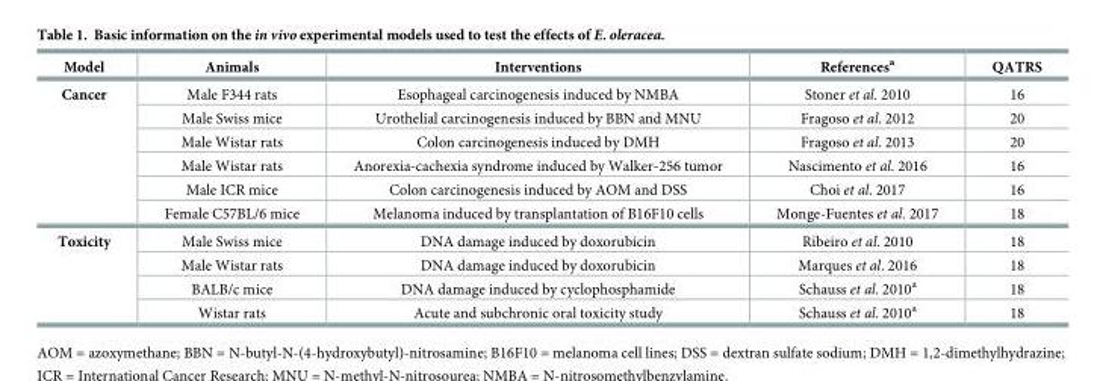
<table><thead><tr><td>Model</td><td>Animals</td><td>Interventions</td><td>References<sup>a</sup></td><td>QATRS</td></tr></thead><tbody><tr><td rowspan="6">Cancer</td><td>Male F344 rats</td><td>Esophageal carcinogenesis induced by NMBA</td><td>Stoner et al. 2010</td><td>16</td></tr><tr><td>Male Swiss mice</td><td>Urothelial carcinogenesis induced by BBN and MNU</td><td>Fragoso et al. 2012</td><td>20</td></tr><tr><td>Male Wistar rats</td><td>Colon carcinogenesis induced by DMH</td><td>Fragoso et al. 2013</td><td>20</td></tr><tr><td>Male Wistar rats</td><td>Anorexia-cachexia syndrome induced by Walker-256 tumor</td><td>Nascimento et al. 2016</td><td>16</td></tr><tr><td>Male ICR mice</td><td>Colon carcinogenesis induced by AOM and DSS</td><td>Choi et al. 2017</td><td>16</td></tr><tr><td>Female C57BL/6 mice</td><td>Melanoma induced by transplantation of B16F10 cells</td><td>Monge-Fuentes et al. 2017</td><td>18</td></tr><tr><td rowspan="4">Toxicity</td><td>Male Swiss mice</td><td>DNA damage induced by doxorubicin</td><td>Ribeiro et al. 2010</td><td>18</td></tr><tr><td>Male Wistar rats</td><td>DNA damage induced by doxorubicin</td><td>Marques et al. 2016</td><td>18</td></tr><tr><td>BALB/c mice</td><td>DNA damage induced by cyclophosphamide</td><td>Schauss et al. 2010<sup>a</sup></td><td>18</td></tr><tr><td>Wistar rats</td><td>Acute and subchronic oral toxicity study</td><td>Schauss et al. 2010<sup>a</sup></td><td>18</td></tr></tbody></table>